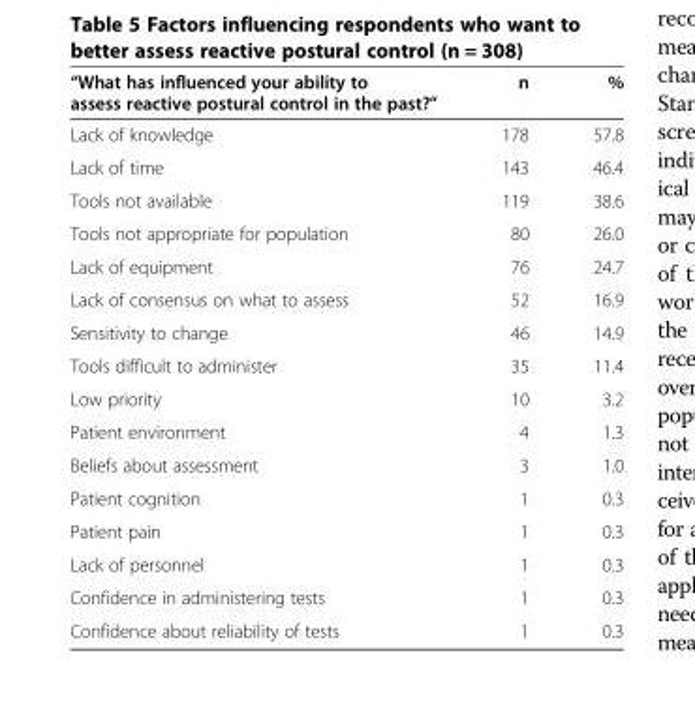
<table><thead><tr><td>“What has influenced your ability to assess reactive postural control in the past?”</td><td>n</td><td>%</td></tr></thead><tbody><tr><td>Lack of knowledge</td><td>178</td><td>57.8</td></tr><tr><td>Lack of time</td><td>143</td><td>46.4</td></tr><tr><td>Tools not available</td><td>119</td><td>38.6</td></tr><tr><td>Tools not appropriate for population</td><td>80</td><td>26.0</td></tr><tr><td>Lack of equipment</td><td>76</td><td>24.7</td></tr><tr><td>Lack of consensus on what to assess</td><td>52</td><td>16.9</td></tr><tr><td>Sensitivity to change</td><td>46</td><td>14.9</td></tr><tr><td>Tools difficult to administer</td><td>35</td><td>11.4</td></tr><tr><td>Low priority</td><td>10</td><td>3.2</td></tr><tr><td>Patient environment</td><td>4</td><td>1.3</td></tr><tr><td>Beliefs about assessment</td><td>3</td><td>1.0</td></tr><tr><td>Patient cognition</td><td>1</td><td>0.3</td></tr><tr><td>Patient pain</td><td>1</td><td>0.3</td></tr><tr><td>Lack of personnel</td><td>1</td><td>0.3</td></tr><tr><td>Confidence in administering tests</td><td>1</td><td>0.3</td></tr><tr><td>Confidence about reliability of tests</td><td>1</td><td>0.3</td></tr></tbody></table>